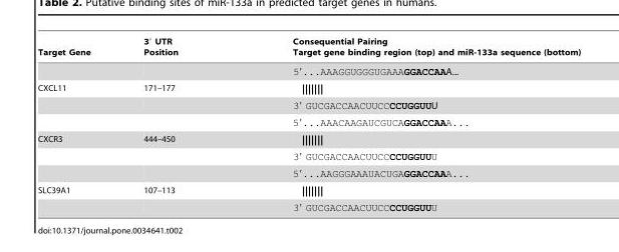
<table><thead><tr><td>Target Gene</td><td>3′ UTR Position</td><td>Consequential Pairing Target gene binding region (top) and miR-133a sequence (bottom)</td></tr></thead><tbody><tr><td></td><td></td><td>5′...AAAGGUGGGUGAAAGGACCAAA...</td></tr><tr><td rowspan="3">CXCL11</td><td>171–177</td><td>|||||||</td></tr><tr><td></td><td>3′ GUCGACCAACUUCCCCUGGUUU</td></tr><tr><td></td><td>5′...AAACAAGAUCGUCAGGACCAAA...</td></tr><tr><td rowspan="3">CXCR3</td><td>444–450</td><td>|||||||</td></tr><tr><td></td><td>3′ GUCGACCAACUUCCCCUGGUUU</td></tr><tr><td></td><td>5′...AAGGGAAAUACUGAGGACCAAA...</td></tr><tr><td rowspan="2">SLC39A1</td><td>107–113</td><td>|||||||</td></tr><tr><td></td><td>3′ GUCGACCAACUUCCCCUGGUUU</td></tr></tbody></table>